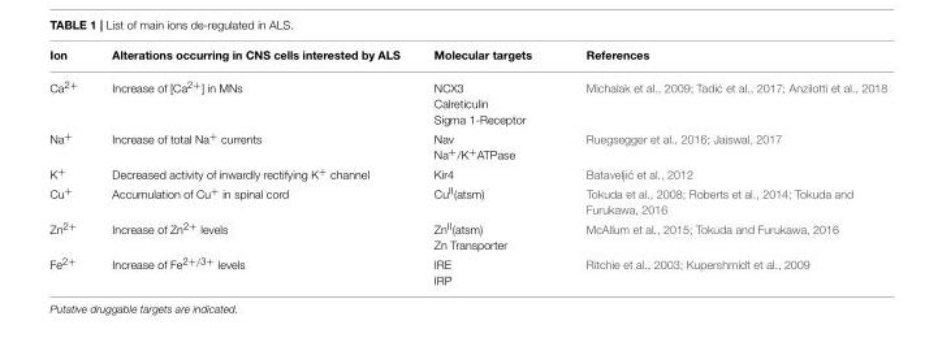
<table><thead><tr><td>Ion</td><td>Alterations occurring in CNS cells interested by ALS</td><td>Molecular targets</td><td>References</td></tr></thead><tbody><tr><td>Ca<sup>2+</sup></td><td>Increase of [Ca<sup>2+</sup>] in MNs</td><td>NCX3 Calreticulin Sigma 1-Receptor</td><td>Michalak et al., 2009; Tadi ´c et al., 2017; Anzilotti et al., 2018</td></tr><tr><td>Na<sup>+</sup></td><td>Increase of total Na<sup>+</sup> currents</td><td>Nav Na<sup>+</sup>/K<sup>+</sup>ATPase</td><td>Ruegsegger et al., 2016; Jaiswal, 2017</td></tr><tr><td>K<sup>+</sup></td><td>Decreased activity of inwardly rectifying K<sup>+</sup> channel</td><td>Kir4</td><td>Batavelji ´c et al., 2012</td></tr><tr><td>Cu<sup>+</sup></td><td>Accumulation of Cu<sup>+</sup> in spinal cord</td><td>Cu<sup>II</sup>(atsm)</td><td>Tokuda et al., 2008; Roberts et al., 2014; Tokuda and Furukawa, 2016</td></tr><tr><td>Zn<sup>2+</sup></td><td>Increase of Zn<sup>2+</sup> levels</td><td>Zn<sup>II</sup>(atsm) Zn Transporter</td><td>McAllum et al., 2015; Tokuda and Furukawa, 2016</td></tr><tr><td>Fe<sup>2+</sup></td><td>Increase of Fe<sup>2+/3+</sup> levels</td><td>IRE IRP</td><td>Ritchie et al., 2003; Kupershmidt et al., 2009</td></tr></tbody></table>